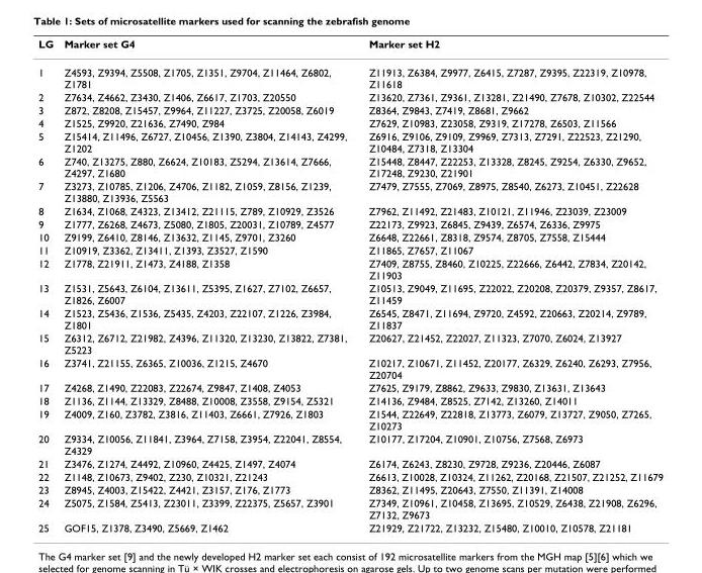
<table><thead><tr><td>LG</td><td>Marker set G4</td><td>Marker set H2</td></tr></thead><tbody><tr><td>1</td><td>Z4593, Z9394, Z5508, Z1705, Z1351, Z9704, Z11464, Z6802, Z1781</td><td>Z11913, Z6384, Z9977, Z6415, Z7287, Z9395, Z22319, Z10978, Z11618</td></tr><tr><td>2</td><td>Z7634, Z4662, Z3430, Z1406, Z6617, Z1703, Z20550</td><td>Z13620, Z7361, Z9361, Z13281, Z21490, Z7678, Z10302, Z22544</td></tr><tr><td>3</td><td>Z872, Z8208, Z15457, Z9964, Z11227, Z3725, Z20058, Z6019</td><td>Z8364, Z9843, Z7419, Z8681, Z9662</td></tr><tr><td>4</td><td>Z1525, Z9920, Z21636, Z7490, Z984</td><td>Z7629, Z10983, Z23058, Z9319, Z17278, Z6503, Z11566</td></tr><tr><td>5</td><td>Z15414, Z11496, Z6727, Z10456, Z1390, Z3804, Z14143, Z4299, Z1202</td><td>Z6916, Z9106, Z9109, Z9969, Z7313, Z7291, Z22523, Z21290, Z10484, Z7318, Z13304</td></tr><tr><td>6</td><td>Z740, Z13275, Z880, Z6624, Z10183, Z5294, Z13614, Z7666, Z4297, Z1680</td><td>Z15448, Z8447, Z22253, Z13328, Z8245, Z9254, Z6330, Z9652, Z17248, Z9230, Z21901</td></tr><tr><td>7</td><td>Z3273, Z10785, Z1206, Z4706, Z1182, Z1059, Z8156, Z1239, Z13880, Z13936, Z5563</td><td>Z7479, Z7555, Z7069, Z8975, Z8540, Z6273, Z10451, Z22628</td></tr><tr><td>8</td><td>Z1634, Z1068, Z4323, Z13412, Z21115, Z789, Z10929, Z3526</td><td>Z7962, Z11492, Z21483, Z10121, Z11946, Z23039, Z23009</td></tr><tr><td>9</td><td>Z1777, Z6268, Z4673, Z5080, Z1805, Z20031, Z10789, Z4577</td><td>Z22173, Z9923, Z6845, Z9439, Z6574, Z6336, Z9975</td></tr><tr><td>10</td><td>Z9199, Z6410, Z8146, Z13632, Z1145, Z9701, Z3260</td><td>Z6648, Z22661, Z8318, Z9574, Z8705, Z7558, Z15444</td></tr><tr><td>11</td><td>Z10919, Z3362, Z13411, Z1393, Z3527, Z1590</td><td>Z11865, Z7657, Z11067</td></tr><tr><td>12</td><td>Z1778, Z21911, Z1473, Z4188, Z1358</td><td>Z7409, Z8755, Z8460, Z10225, Z22666, Z6442, Z7834, Z20142, Z11903</td></tr><tr><td>13</td><td>Z1531, Z5643, Z6104, Z13611, Z5395, Z1627, Z7102, Z6657, Z1826, Z6007</td><td>Z10513, Z9049, Z11695, Z22022, Z20208, Z20379, Z9357, Z8617, Z11459</td></tr><tr><td>14</td><td>Z1523, Z5436, Z1536, Z5435, Z4203, Z22107, Z1226, Z3984, Z1801</td><td>Z6545, Z8471, Z11694, Z9720, Z4592, Z20663, Z20214, Z9789, Z11837</td></tr><tr><td>15</td><td>Z6312, Z6712, Z21982, Z4396, Z11320, Z13230, Z13822, Z7381, Z5223</td><td>Z20627, Z21452, Z22027, Z11323, Z7070, Z6024, Z13927</td></tr><tr><td>16</td><td>Z3741, Z21155, Z6365, Z10036, Z1215, Z4670</td><td>Z10217, Z10671, Z11452, Z20177, Z6329, Z6240, Z6293, Z7956, Z20704</td></tr><tr><td>17</td><td>Z4268, Z1490, Z22083, Z22674, Z9847, Z1408, Z4053</td><td>Z7625, Z9179, Z8862, Z9633, Z9830, Z13631, Z13643</td></tr><tr><td>18</td><td>Z1136, Z1144, Z13329, Z8488, Z10008, Z3558, Z9154, Z5321</td><td>Z14136, Z9484, Z8525, Z7142, Z13260, Z14011</td></tr><tr><td>19</td><td>Z4009, Z160, Z3782, Z3816, Z11403, Z6661, Z7926, Z1803</td><td>Z1544, Z22649, Z22818, Z13773, Z6079, Z13727, Z9050, Z7265, Z10273</td></tr><tr><td>20</td><td>Z9334, Z10056, Z11841, Z3964, Z7158, Z3954, Z22041, Z8554, Z4329</td><td>Z10177, Z17204, Z10901, Z10756, Z7568, Z6973</td></tr><tr><td>21</td><td>Z3476, Z1274, Z4492, Z10960, Z4425, Z1497, Z4074</td><td>Z6174, Z6243, Z8230, Z9728, Z9236, Z20446, Z6087</td></tr><tr><td>22</td><td>Z1148, Z10673, Z9402, Z230, Z10321, Z21243</td><td>Z6613, Z10028, Z10324, Z11262, Z20168, Z21507, Z21252, Z11679</td></tr><tr><td>23</td><td>Z8945, Z4003, Z15422, Z4421, Z3157, Z176, Z1773</td><td>Z8362, Z11495, Z20643, Z7550, Z11391, Z14008</td></tr><tr><td>24</td><td>Z5075, Z1584, Z5413, Z23011, Z3399, Z22375, Z5657, Z3901</td><td>Z7349, Z10961, Z10458, Z13695, Z10529, Z6438, Z21908, Z6296, Z7132, Z9673</td></tr><tr><td>25</td><td>GOF15, Z1378, Z3490, Z5669, Z1462</td><td>Z21929, Z21722, Z13232, Z15480, Z10010, Z10578, Z21181</td></tr></tbody></table>